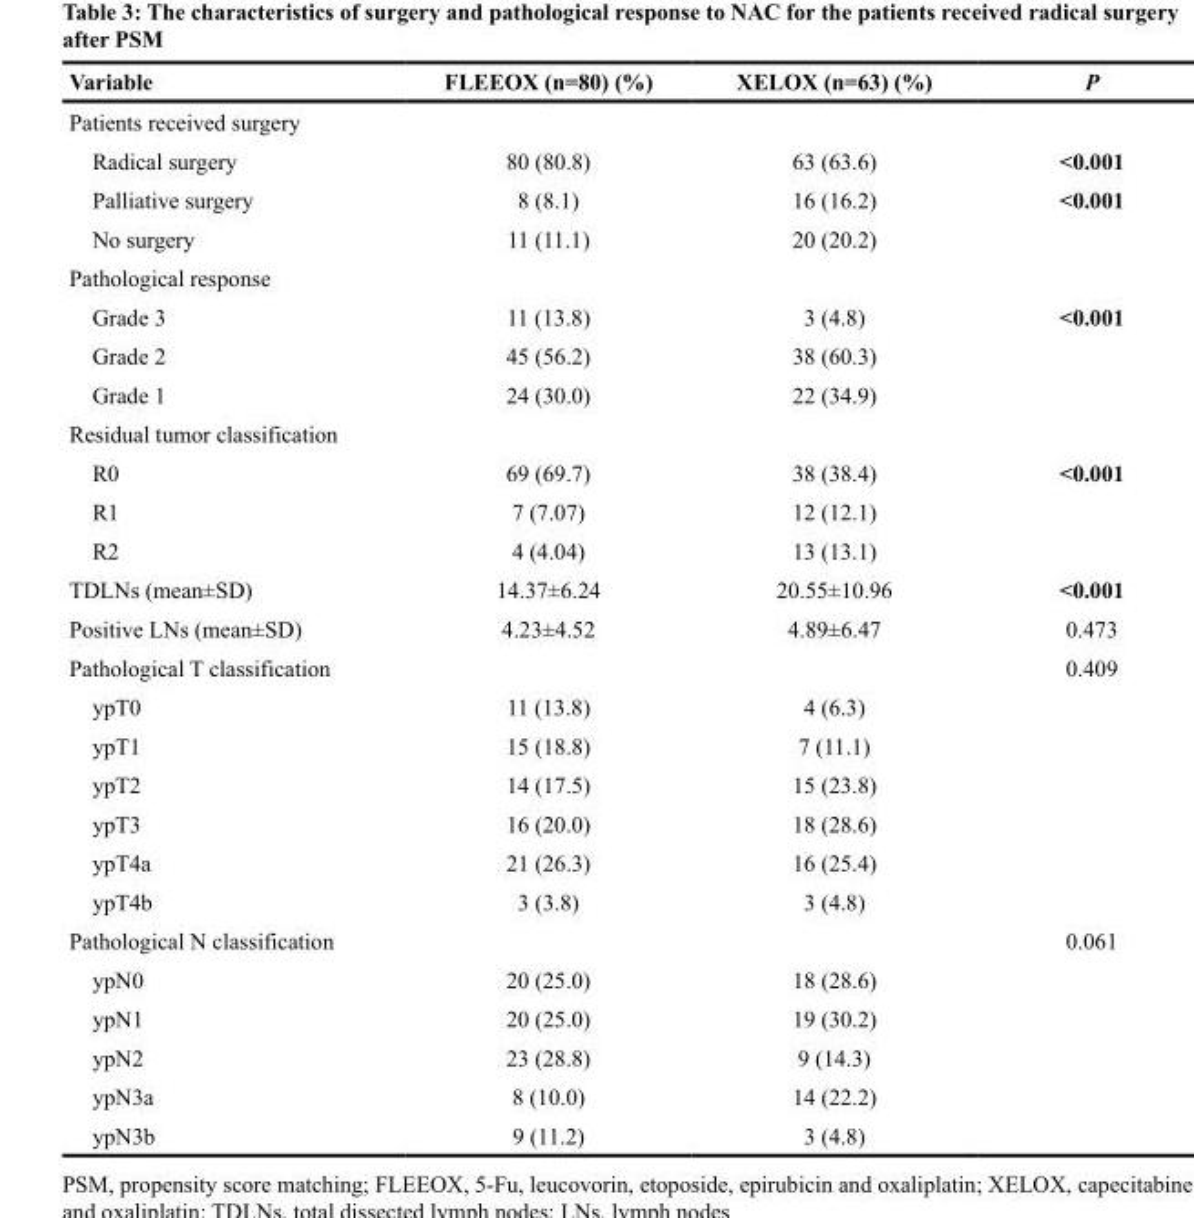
<table><thead><tr><td>Variable</td><td>FLEEOX (n=80) (%)</td><td>XELOX (n=63) (%)</td><td>P</td></tr></thead><tbody><tr><td colspan="4">Patients received surgery</td></tr><tr><td>Radical surgery</td><td>80 (80.8)</td><td>63 (63.6)</td><td>&lt;0.001</td></tr><tr><td>Palliative surgery</td><td>8 (8.1)</td><td>16 (16.2)</td><td>&lt;0.001</td></tr><tr><td>No surgery</td><td>11 (11.1)</td><td>20 (20.2)</td><td></td></tr><tr><td colspan="4">Pathological response</td></tr><tr><td>Grade 3</td><td>11 (13.8)</td><td>3 (4.8)</td><td>&lt;0.001</td></tr><tr><td>Grade 2</td><td>45 (56.2)</td><td>38 (60.3)</td><td></td></tr><tr><td>Grade 1</td><td>24 (30.0)</td><td>22 (34.9)</td><td></td></tr><tr><td colspan="4">Residual tumor classification</td></tr><tr><td>R0</td><td>69 (69.7)</td><td>38 (38.4)</td><td>&lt;0.001</td></tr><tr><td>R1</td><td>7 (7.07)</td><td>12 (12.1)</td><td></td></tr><tr><td>R2</td><td>4 (4.04)</td><td>13 (13.1)</td><td></td></tr><tr><td>TDLNs (mean±SD)</td><td>14.37±6.24</td><td>20.55±10.96</td><td>&lt;0.001</td></tr><tr><td>Positive LNs (mean±SD)</td><td>4.23±4.52</td><td>4.89±6.47</td><td>0.473</td></tr><tr><td>Pathological T classification</td><td></td><td></td><td>0.409</td></tr><tr><td>ypT0</td><td>11 (13.8)</td><td>4 (6.3)</td><td></td></tr><tr><td>ypT1</td><td>15 (18.8)</td><td>7 (11.1)</td><td></td></tr><tr><td>ypT2</td><td>14 (17.5)</td><td>15 (23.8)</td><td></td></tr><tr><td>ypT3</td><td>16 (20.0)</td><td>18 (28.6)</td><td></td></tr><tr><td>ypT4a</td><td>21 (26.3)</td><td>16 (25.4)</td><td></td></tr><tr><td>ypT4b</td><td>3 (3.8)</td><td>3 (4.8)</td><td></td></tr><tr><td>Pathological N classification</td><td></td><td></td><td>0.061</td></tr><tr><td>ypN0</td><td>20 (25.0)</td><td>18 (28.6)</td><td></td></tr><tr><td>ypN1</td><td>20 (25.0)</td><td>19 (30.2)</td><td></td></tr><tr><td>ypN2</td><td>23 (28.8)</td><td>9 (14.3)</td><td></td></tr><tr><td>ypN3a</td><td>8 (10.0)</td><td>14 (22.2)</td><td></td></tr><tr><td>ypN3b</td><td>9 (11.2)</td><td>3 (4.8)</td><td></td></tr></tbody></table>